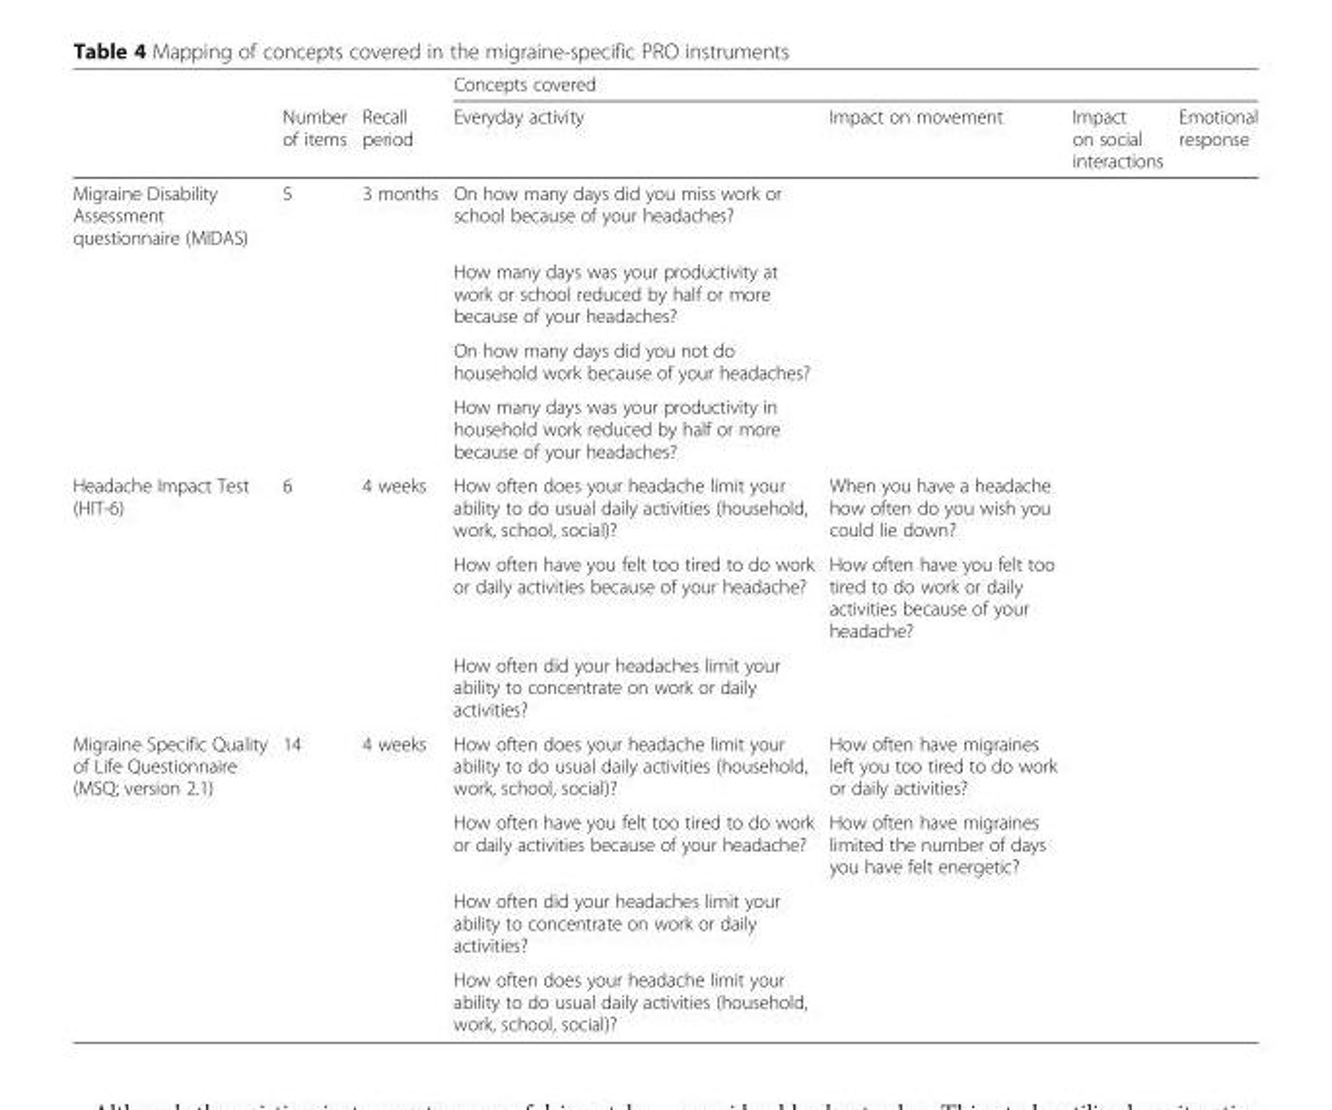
<table><thead><tr><td rowspan="2"></td><td rowspan="2">Number of items</td><td rowspan="2">Recall period</td><td colspan="4">Concepts covered</td></tr><tr><td>Everyday activity</td><td>Impact on movement</td><td>Impact on social interactions</td><td>Emotional response</td></tr></thead><tbody><tr><td rowspan="4">Migraine Disability Assessment questionnaire (MIDAS)</td><td>5</td><td>3 months</td><td>On how many days did you miss work or school because of your headaches?</td><td></td><td></td><td></td></tr><tr><td></td><td></td><td>How many days was your productivity at work or school reduced by half or more because of your headaches?</td><td></td><td></td><td></td></tr><tr><td></td><td></td><td>On how many days did you not do household work because of your headaches?</td><td></td><td></td><td></td></tr><tr><td></td><td></td><td>How many days was your productivity in household work reduced by half or more because of your headaches?</td><td></td><td></td><td></td></tr><tr><td rowspan="3">Headache Impact Test (HIT-6)</td><td>6</td><td>4 weeks</td><td>How often does your headache limit your ability to do usual daily activities (household, work, school, social)?</td><td>When you have a headache how often do you wish you could lie down?</td><td></td><td></td></tr><tr><td></td><td></td><td>How often have you felt too tired to do work or daily activities because of your headache?</td><td>How often have you felt too tired to do work or daily activities because of your headache?</td><td></td><td></td></tr><tr><td></td><td></td><td>How often did your headaches limit your ability to concentrate on work or daily activities?</td><td></td><td></td><td></td></tr><tr><td rowspan="4">Migraine Specific Quality of Life Questionnaire (MSQ; version 2.1)</td><td>14</td><td>4 weeks</td><td>How often does your headache limit your ability to do usual daily activities (household, work, school, social)?</td><td>How often have migraines left you too tired to do work or daily activities?</td><td></td><td></td></tr><tr><td></td><td></td><td>How often have you felt too tired to do work or daily activities because of your headache?</td><td>How often have migraines limited the number of days you have felt energetic?</td><td></td><td></td></tr><tr><td></td><td></td><td>How often did your headaches limit your ability to concentrate on work or daily activities?</td><td></td><td></td><td></td></tr><tr><td></td><td></td><td>How often does your headache limit your ability to do usual daily activities (household, work, school, social)?</td><td></td><td></td><td></td></tr></tbody></table>